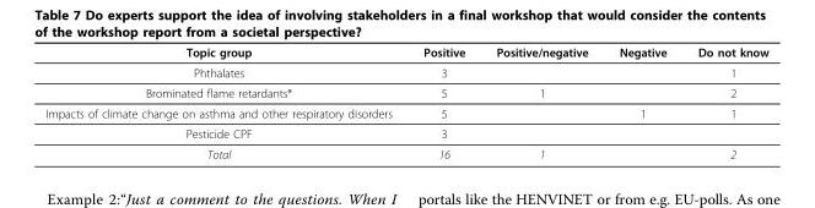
<table><thead><tr><td>Topic group</td><td>Positive</td><td>Positive/negative</td><td>Negative</td><td>Do not know</td></tr></thead><tbody><tr><td>Phthalates</td><td>3</td><td></td><td></td><td>1</td></tr><tr><td>Brominated flame retardants*</td><td>5</td><td>1</td><td></td><td>2</td></tr><tr><td>Impacts of climate change on asthma and other respiratory disorders</td><td>5</td><td></td><td>1</td><td>1</td></tr><tr><td>Pesticide CPF</td><td>3</td><td></td><td></td><td></td></tr><tr><td>Total</td><td>16</td><td>1</td><td></td><td>2</td></tr></tbody></table>